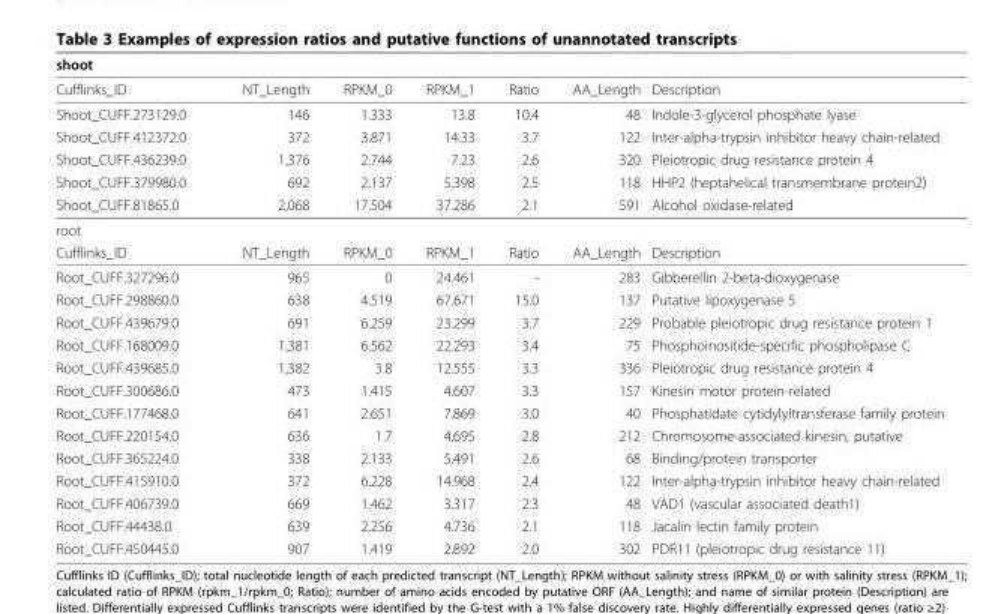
<table><thead><tr><td>shoot</td><td></td><td></td><td></td><td></td><td></td><td></td></tr></thead><tbody><tr><td>Cufflinks_ID</td><td>NT_Length</td><td>RPKM_0</td><td>RPKM_1</td><td>Ratio</td><td>AA_Length</td><td>Description</td></tr><tr><td>Shoot_CUFF.273129.0</td><td>146</td><td>1.333</td><td>13.8</td><td>10.4</td><td>48</td><td>Indole-3-glycerol phosphate lyase</td></tr><tr><td>Shoot_CUFF.412372.0</td><td>372</td><td>3.871</td><td>14.33</td><td>3.7</td><td>122</td><td>Inter-alpha-trypsin inhibitor heavy chain-related</td></tr><tr><td>Shoot_CUFF.436239.0</td><td>1,376</td><td>2.744</td><td>7.23</td><td>2.6</td><td>320</td><td>Pleiotropic drug resistance protein 4</td></tr><tr><td>Shoot_CUFF.379980.0</td><td>692</td><td>2.137</td><td>5.398</td><td>2.5</td><td>118</td><td>HHP2 (heptahelical transmembrane protein2)</td></tr><tr><td>Shoot_CUFF.81865.0</td><td>2,068</td><td>17.504</td><td>37.286</td><td>2.1</td><td>591</td><td>Alcohol oxidase-related</td></tr><tr><td colspan="7">root</td></tr><tr><td>Cufflinks_ID</td><td>NT_Length</td><td>RPKM_0</td><td>RPKM_1</td><td>Ratio</td><td>AA_Length</td><td>Description</td></tr><tr><td>Root_CUFF.327296.0</td><td>965</td><td>0</td><td>24.461</td><td>-</td><td>283</td><td>Gibberellin 2-beta-dioxygenase</td></tr><tr><td>Root_CUFF.298860.0</td><td>638</td><td>4.519</td><td>67.671</td><td>15.0</td><td>137</td><td>Putative lipoxygenase 5</td></tr><tr><td>Root_CUFF.439679.0</td><td>691</td><td>6.259</td><td>23.299</td><td>3.7</td><td>229</td><td>Probable pleiotropic drug resistance protein 1</td></tr><tr><td>Root_CUFF.168009.0</td><td>1,381</td><td>6.562</td><td>22.293</td><td>3.4</td><td>75</td><td>Phosphoinositide-specific phospholipase C</td></tr><tr><td>Root_CUFF.439685.0</td><td>1,382</td><td>3.8</td><td>12.555</td><td>3.3</td><td>336</td><td>Pleiotropic drug resistance protein 4</td></tr><tr><td>Root_CUFF.300686.0</td><td>473</td><td>1.415</td><td>4.607</td><td>3.3</td><td>157</td><td>Kinesin motor protein-related</td></tr><tr><td>Root_CUFF.177468.0</td><td>641</td><td>2.651</td><td>7.869</td><td>3.0</td><td>40</td><td>Phosphatidate cytidylyltransferase family protein</td></tr><tr><td>Root_CUFF.220154.0</td><td>636</td><td>1.7</td><td>4.695</td><td>2.8</td><td>212</td><td>Chromosome-associated kinesin, putative</td></tr><tr><td>Root_CUFF.365224.0</td><td>338</td><td>2.133</td><td>5.491</td><td>2.6</td><td>68</td><td>Binding/protein transporter</td></tr><tr><td>Root_CUFF.415910.0</td><td>372</td><td>6.228</td><td>14.968</td><td>2.4</td><td>122</td><td>Inter-alpha-trypsin inhibitor heavy chain-related</td></tr><tr><td>Root_CUFF.406739.0</td><td>669</td><td>1.462</td><td>3.317</td><td>2.3</td><td>48</td><td>VAD1 (vascular associated death1)</td></tr><tr><td>Root_CUFF.44438.0</td><td>639</td><td>2.256</td><td>4.736</td><td>2.1</td><td>118</td><td>Jacalin lectin family protein</td></tr><tr><td>Root_CUFF.450445.0</td><td>907</td><td>1.419</td><td>2.892</td><td>2.0</td><td>302</td><td>PDR11 (pleiotropic drug resistance 11)</td></tr></tbody></table>